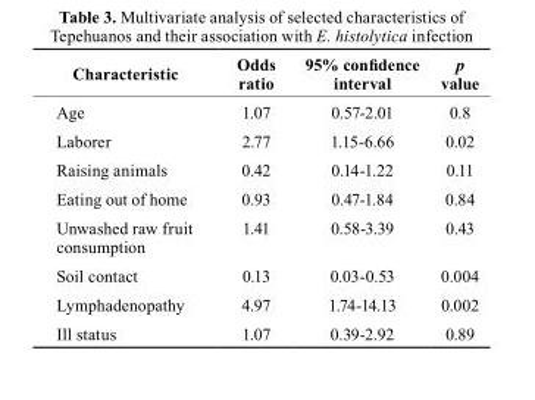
<table><thead><tr><td>characteristic</td><td>Odds ratio</td><td>95% confidence interval</td><td>p value</td></tr></thead><tbody><tr><td>Age</td><td>1.07</td><td>0.57-2.01</td><td>0.8</td></tr><tr><td>Laborer</td><td>2.77</td><td>1.15-6.66</td><td>0.02</td></tr><tr><td>Raising animals</td><td>0.42</td><td>0.14-1.22</td><td>0.11</td></tr><tr><td>Eating out of home</td><td>0.93</td><td>0.47-1.84</td><td>0.84</td></tr><tr><td>Unwashed raw fruit consumption</td><td>1.41</td><td>0.58-3.39</td><td>0.43</td></tr><tr><td>Soil contact</td><td>0.13</td><td>0.03-0.53</td><td>0.004</td></tr><tr><td>Lymphadenopathy</td><td>4.97</td><td>1.74-14.13</td><td>0.002</td></tr><tr><td>Ill status</td><td>1.07</td><td>0.39-2.92</td><td>0.89</td></tr></tbody></table>